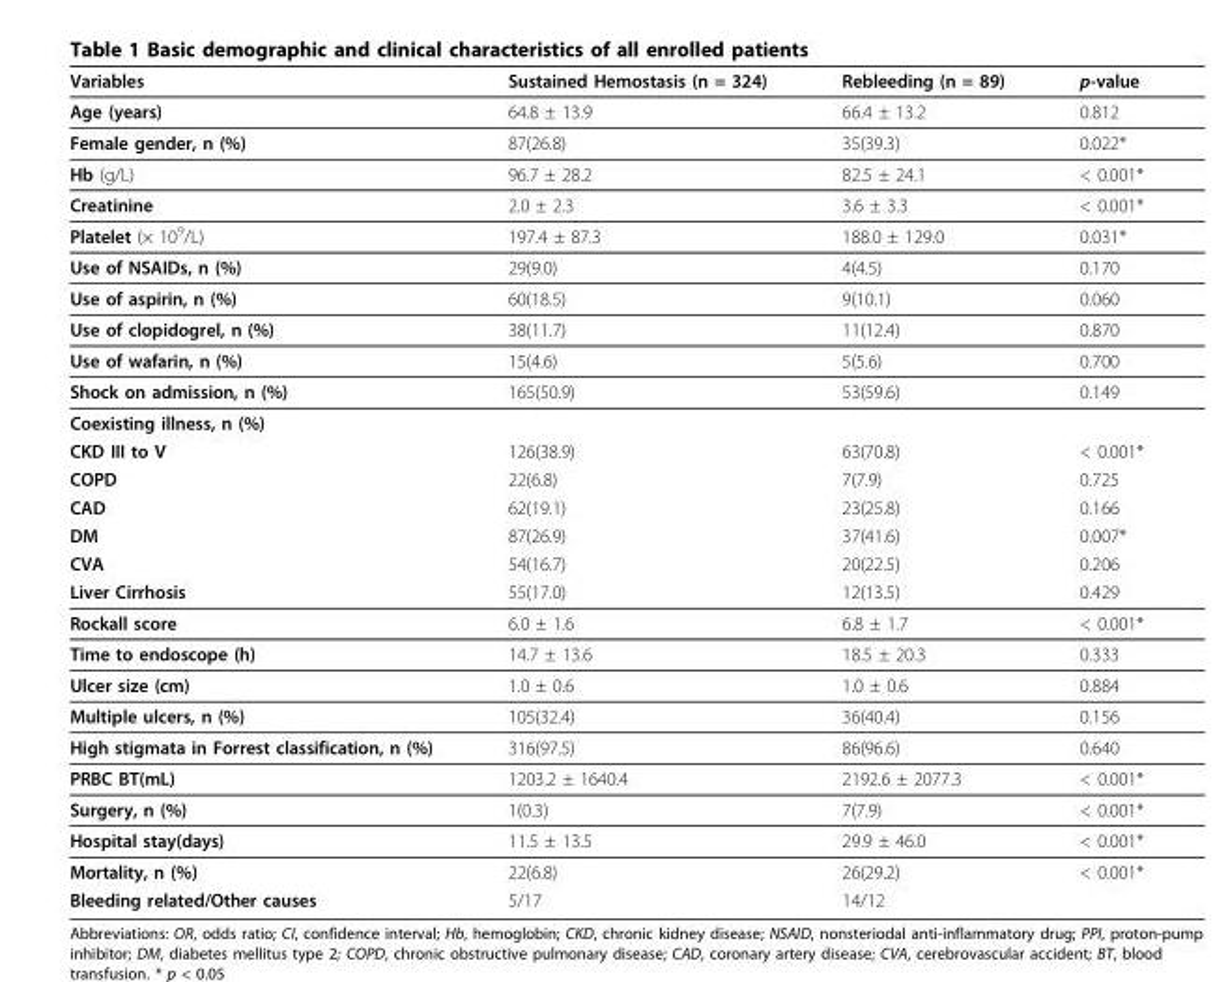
<table><thead><tr><td>Variables</td><td>Sustained Hemostasis (n = 324)</td><td>Rebleeding (n = 89)</td><td>p-value</td></tr></thead><tbody><tr><td>Age (years)</td><td>64.8 ± 13.9</td><td>66.4 ± 13.2</td><td>0.812</td></tr><tr><td>Female gender, n (%)</td><td>87(26.8)</td><td>35(39.3)</td><td>0.022*</td></tr><tr><td>Hb (g/L)</td><td>96.7 ± 28.2</td><td>82.5 ± 24.1</td><td>&lt; 0.001*</td></tr><tr><td>Creatinine</td><td>2.0 ± 2.3</td><td>3.6 ± 3.3</td><td>&lt; 0.001*</td></tr><tr><td>Platelet (× 10<sup>9</sup>/L)</td><td>197.4 ± 87.3</td><td>188.0 ± 129.0</td><td>0.031*</td></tr><tr><td>Use of NSAIDs, n (%)</td><td>29(9.0)</td><td>4(4.5)</td><td>0.170</td></tr><tr><td>Use of aspirin, n (%)</td><td>60(18.5)</td><td>9(10.1)</td><td>0.060</td></tr><tr><td>Use of clopidogrel, n (%)</td><td>38(11.7)</td><td>11(12.4)</td><td>0.870</td></tr><tr><td>Use of wafarin, n (%)</td><td>15(4.6)</td><td>5(5.6)</td><td>0.700</td></tr><tr><td>Shock on admission, n (%)</td><td>165(50.9)</td><td>53(59.6)</td><td>0.149</td></tr><tr><td colspan="4">Coexisting illness, n (%)</td></tr><tr><td>CKD III to V</td><td>126(38.9)</td><td>63(70.8)</td><td>&lt; 0.001*</td></tr><tr><td>COPD</td><td>22(6.8)</td><td>7(7.9)</td><td>0.725</td></tr><tr><td>CAD</td><td>62(19.1)</td><td>23(25.8)</td><td>0.166</td></tr><tr><td>DM</td><td>87(26.9)</td><td>37(41.6)</td><td>0.007*</td></tr><tr><td>CVA</td><td>54(16.7)</td><td>20(22.5)</td><td>0.206</td></tr><tr><td>Liver Cirrhosis</td><td>55(17.0)</td><td>12(13.5)</td><td>0.429</td></tr><tr><td>Rockall score</td><td>6.0 ± 1.6</td><td>6.8 ± 1.7</td><td>&lt; 0.001*</td></tr><tr><td>Time to endoscope (h)</td><td>14.7 ± 13.6</td><td>18.5 ± 20.3</td><td>0.333</td></tr><tr><td>Ulcer size (cm)</td><td>1.0 ± 0.6</td><td>1.0 ± 0.6</td><td>0.884</td></tr><tr><td>Multiple ulcers, n (%)</td><td>105(32.4)</td><td>36(40.4)</td><td>0.156</td></tr><tr><td>High stigmata in Forrest classification, n (%)</td><td>316(97.5)</td><td>86(96.6)</td><td>0.640</td></tr><tr><td>PRBC BT(mL)</td><td>1203.2 ± 1640.4</td><td>2192.6 ± 2077.3</td><td>&lt; 0.001*</td></tr><tr><td>Surgery, n (%)</td><td>1(0.3)</td><td>7(7.9)</td><td>&lt; 0.001*</td></tr><tr><td>Hospital stay(days)</td><td>11.5 ± 13.5</td><td>29.9 ± 46.0</td><td>&lt; 0.001*</td></tr><tr><td>Mortality, n (%)</td><td>22(6.8)</td><td>26(29.2)</td><td>&lt; 0.001*</td></tr><tr><td>Bleeding related/Other causes</td><td>5/17</td><td>14/12</td><td></td></tr></tbody></table>